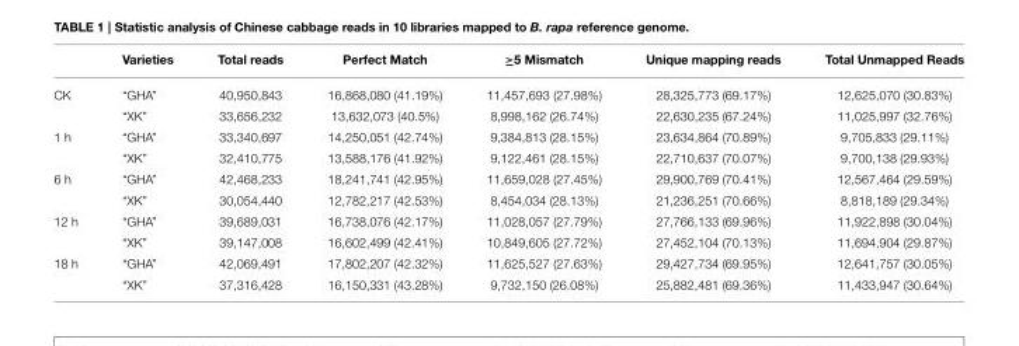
<table><thead><tr><td></td><td>Varieties</td><td>Total reads</td><td>Perfect Match</td><td>≥5 Mismatch</td><td>Unique mapping reads</td><td>Total Unmapped Reads</td></tr></thead><tbody><tr><td rowspan="2">CK</td><td>“GHA”</td><td>40,950,843</td><td>16,868,080 (41.19%)</td><td>11,457,693 (27.98%)</td><td>28,325,773 (69.17%)</td><td>12,625,070 (30.83%)</td></tr><tr><td>“XK”</td><td>33,656,232</td><td>13,632,073 (40.5%)</td><td>8,998,162 (26.74%)</td><td>22,630,235 (67.24%)</td><td>11,025,997 (32.76%)</td></tr><tr><td rowspan="2">1 h</td><td>“GHA”</td><td>33,340,697</td><td>14,250,051 (42.74%)</td><td>9,384,813 (28.15%)</td><td>23,634,864 (70.89%)</td><td>9,705,833 (29.11%)</td></tr><tr><td>“XK”</td><td>32,410,775</td><td>13,588,176 (41.92%)</td><td>9,122,461 (28.15%)</td><td>22,710,637 (70.07%)</td><td>9,700,138 (29.93%)</td></tr><tr><td rowspan="2">6 h</td><td>“GHA”</td><td>42,468,233</td><td>18,241,741 (42.95%)</td><td>11,659,028 (27.45%)</td><td>29,900,769 (70.41%)</td><td>12,567,464 (29.59%)</td></tr><tr><td>“XK”</td><td>30,054,440</td><td>12,782,217 (42.53%)</td><td>8,454,034 (28.13%)</td><td>21,236,251 (70.66%)</td><td>8,818,189 (29.34%)</td></tr><tr><td rowspan="2">12 h</td><td>“GHA”</td><td>39,689,031</td><td>16,738,076 (42.17%)</td><td>11,028,057 (27.79%)</td><td>27,766,133 (69.96%)</td><td>11,922,898 (30.04%)</td></tr><tr><td>“XK”</td><td>39,147,008</td><td>16,602,499 (42.41%)</td><td>10,849,605 (27.72%)</td><td>27,452,104 (70.13%)</td><td>11,694,904 (29.87%)</td></tr><tr><td rowspan="2">18 h</td><td>“GHA”</td><td>42,069,491</td><td>17,802,207 (42.32%)</td><td>11,625,527 (27.63%)</td><td>29,427,734 (69.95%)</td><td>12,641,757 (30.05%)</td></tr><tr><td>“XK”</td><td>37,316,428</td><td>16,150,331 (43.28%)</td><td>9,732,150 (26.08%)</td><td>25,882,481 (69.36%)</td><td>11,433,947 (30.64%)</td></tr></tbody></table>